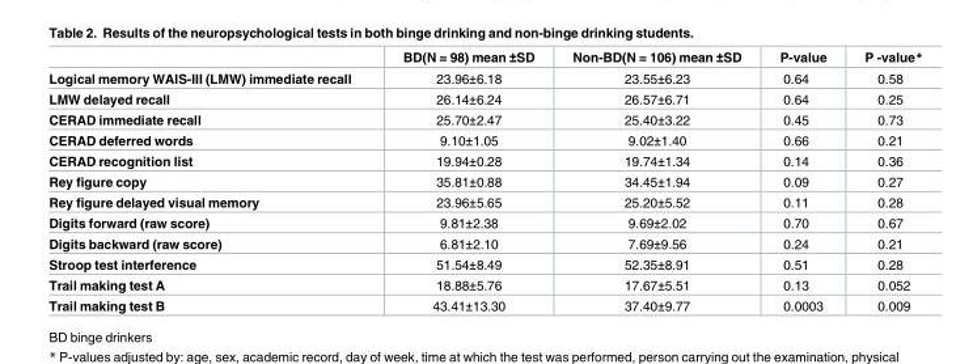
<table><thead><tr><td></td><td>BD(N = 98) mean ±SD</td><td>Non-BD(N = 106) mean ±SD</td><td>P-value</td><td>P -value*</td></tr></thead><tbody><tr><td>Logical memory WAIS-III (LMW) immediate recall</td><td>23.96±6.18</td><td>23.55±6.23</td><td>0.64</td><td>0.58</td></tr><tr><td>LMW delayed recall</td><td>26.14±6.24</td><td>26.57±6.71</td><td>0.64</td><td>0.25</td></tr><tr><td>CERAD immediate recall</td><td>25.70±2.47</td><td>25.40±3.22</td><td>0.45</td><td>0.73</td></tr><tr><td>CERAD deferred words</td><td>9.10±1.05</td><td>9.02±1.40</td><td>0.66</td><td>0.21</td></tr><tr><td>CERAD recognition list</td><td>19.94±0.28</td><td>19.74±1.34</td><td>0.14</td><td>0.36</td></tr><tr><td>Rey figure copy</td><td>35.81±0.88</td><td>34.45±1.94</td><td>0.09</td><td>0.27</td></tr><tr><td>Rey figure delayed visual memory</td><td>23.96±5.65</td><td>25.20±5.52</td><td>0.11</td><td>0.28</td></tr><tr><td>Digits forward (raw score)</td><td>9.81±2.38</td><td>9.69±2.02</td><td>0.70</td><td>0.67</td></tr><tr><td>Digits backward (raw score)</td><td>6.81±2.10</td><td>7.69±9.56</td><td>0.24</td><td>0.21</td></tr><tr><td>Stroop test interference</td><td>51.54±8.49</td><td>52.35±8.91</td><td>0.51</td><td>0.28</td></tr><tr><td>Trail making test A</td><td>18.88±5.76</td><td>17.67±5.51</td><td>0.13</td><td>0.052</td></tr><tr><td>Trail making test B</td><td>43.41±13.30</td><td>37.40±9.77</td><td>0.0003</td><td>0.009</td></tr></tbody></table>